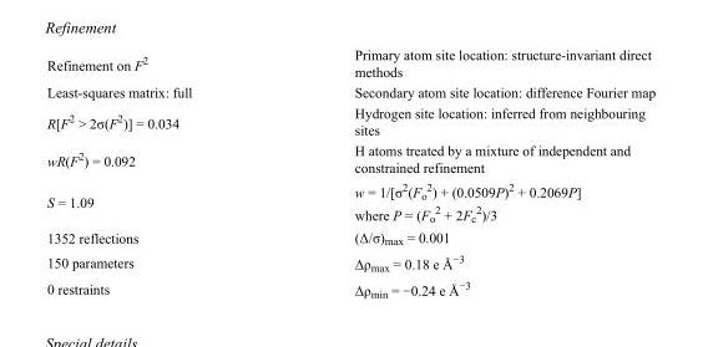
<table><tbody><tr><td>Refinement on F<sup>2</sup></td><td>Primary atom site location: structure-invariant direct methods</td></tr><tr><td>Least-squares matrix: full</td><td>Secondary atom site location: difference Fourier map</td></tr><tr><td>R[F<sup>2</sup> &gt; 2σ(F<sup>2</sup>)] = 0.034</td><td>Hydrogen site location: inferred from neighbouring sites</td></tr><tr><td>wR(F<sup>2</sup>) = 0.092</td><td>H atoms treated by a mixture of independent and constrained refinement</td></tr><tr><td>S = 1.09</td><td>w = 1/[σ<sup>2</sup>(F<sub>o</sub> <sup>2</sup>) + (0.0509P)<sup>2</sup> + 0.2069P] where P = (F<sub>o</sub> <sup>2</sup> + 2F<sub>c</sub> <sup>2</sup>)/3</td></tr><tr><td>1352 reflections</td><td>(Δ/σ)<sub>max</sub> = 0.001</td></tr><tr><td>150 parameters</td><td>Δρ<sub>max</sub> = 0.18 e Å<sup>−3</sup></td></tr><tr><td>0 restraints</td><td>Δρ<sub>min</sub> = −0.24 e Å<sup>−3</sup></td></tr></tbody></table>